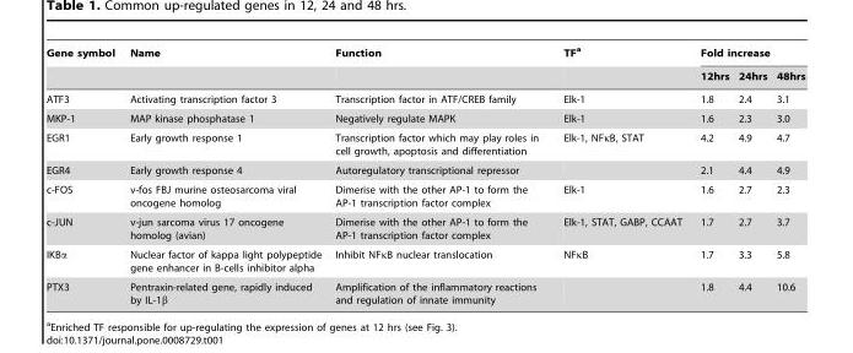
<table><thead><tr><td rowspan="2">Gene symbol</td><td rowspan="2">Name</td><td rowspan="2">Function</td><td rowspan="2">TF<sup>a</sup></td><td colspan="3">Fold increase</td></tr><tr><td>12hrs</td><td>24hrs</td><td>48hrs</td></tr></thead><tbody><tr><td>ATF3</td><td>Activating transcription factor 3</td><td>Transcription factor in ATF/CREB family</td><td>Elk-1</td><td>1.8</td><td>2.4</td><td>3.1</td></tr><tr><td>MKP-1</td><td>MAP kinase phosphatase 1</td><td>Negatively regulate MAPK</td><td>Elk-1</td><td>1.6</td><td>2.3</td><td>3.0</td></tr><tr><td>EGR1</td><td>Early growth response 1</td><td>Transcription factor which may play roles in cell growth, apoptosis and differentiation</td><td>Elk-1, NFκB, STAT</td><td>4.2</td><td>4.9</td><td>4.7</td></tr><tr><td>EGR4</td><td>Early growth response 4</td><td>Autoregulatory transcriptional repressor</td><td></td><td>2.1</td><td>4.4</td><td>4.9</td></tr><tr><td>c-FOS</td><td>v-fos FBJ murine osteosarcoma viral oncogene homolog</td><td>Dimerise with the other AP-1 to form the AP-1 transcription factor complex</td><td>Elk-1</td><td>1.6</td><td>2.7</td><td>2.3</td></tr><tr><td>c-JUN</td><td>v-jun sarcoma virus 17 oncogene homolog (avian)</td><td>Dimerise with the other AP-1 to form the AP-1 transcription factor complex</td><td>Elk-1, STAT, GABP, CCAAT</td><td>1.7</td><td>2.7</td><td>3.7</td></tr><tr><td>IKBα</td><td>Nuclear factor of kappa light polypeptide gene enhancer in B-cells inhibitor alpha</td><td>Inhibit NFκB nuclear translocation</td><td>NFκB</td><td>1.7</td><td>3.3</td><td>5.8</td></tr><tr><td>PTX3</td><td>Pentraxin-related gene, rapidly induced by IL-1β</td><td>Amplification of the inflammatory reactions and regulation of innate immunity</td><td></td><td>1.8</td><td>4.4</td><td>10.6</td></tr></tbody></table>